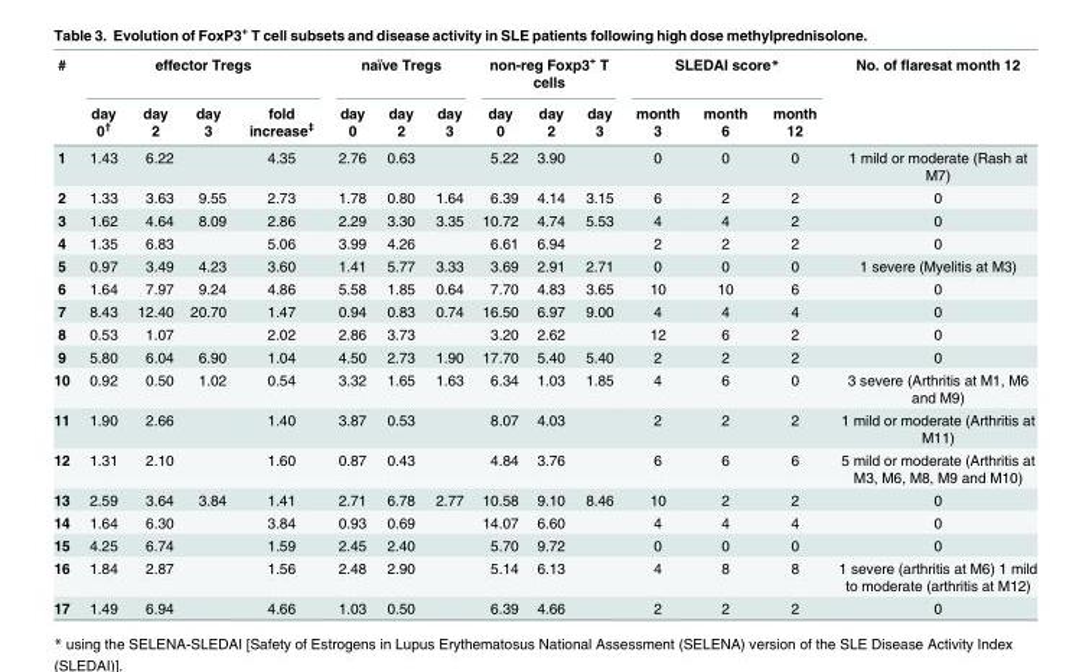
<table><thead><tr><td rowspan="2">#</td><td colspan="4">effector Tregs</td><td colspan="3">naïve Tregs</td><td colspan="3">non-reg Foxp3<sup>+</sup> T cells</td><td colspan="3">SLEDAI score*</td><td rowspan="2">No. of flaresat month 12</td></tr><tr><td>day 0<sup>†</sup></td><td>day 2</td><td>day 3</td><td>fold increase<sup>‡</sup></td><td>day 0</td><td>day 2</td><td>day 3</td><td>day 0</td><td>day 2</td><td>day 3</td><td>month 3</td><td>month 6</td><td>month 12</td></tr></thead><tbody><tr><td>1</td><td>1.43</td><td>6.22</td><td></td><td>4.35</td><td>2.76</td><td>0.63</td><td></td><td>5.22</td><td>3.90</td><td></td><td>0</td><td>0</td><td>0</td><td>1 mild or moderate (Rash at M7)</td></tr><tr><td>2</td><td>1.33</td><td>3.63</td><td>9.55</td><td>2.73</td><td>1.78</td><td>0.80</td><td>1.64</td><td>6.39</td><td>4.14</td><td>3.15</td><td>6</td><td>2</td><td>2</td><td>0</td></tr><tr><td>3</td><td>1.62</td><td>4.64</td><td>8.09</td><td>2.86</td><td>2.29</td><td>3.30</td><td>3.35</td><td>10.72</td><td>4.74</td><td>5.53</td><td>4</td><td>4</td><td>2</td><td>0</td></tr><tr><td>4</td><td>1.35</td><td>6.83</td><td></td><td>5.06</td><td>3.99</td><td>4.26</td><td></td><td>6.61</td><td>6.94</td><td></td><td>2</td><td>2</td><td>2</td><td>0</td></tr><tr><td>5</td><td>0.97</td><td>3.49</td><td>4.23</td><td>3.60</td><td>1.41</td><td>5.77</td><td>3.33</td><td>3.69</td><td>2.91</td><td>2.71</td><td>0</td><td>0</td><td>0</td><td>1 severe (Myelitis at M3)</td></tr><tr><td>6</td><td>1.64</td><td>7.97</td><td>9.24</td><td>4.86</td><td>5.58</td><td>1.85</td><td>0.64</td><td>7.70</td><td>4.83</td><td>3.65</td><td>10</td><td>10</td><td>6</td><td>0</td></tr><tr><td>7</td><td>8.43</td><td>12.40</td><td>20.70</td><td>1.47</td><td>0.94</td><td>0.83</td><td>0.74</td><td>16.50</td><td>6.97</td><td>9.00</td><td>4</td><td>4</td><td>4</td><td>0</td></tr><tr><td>8</td><td>0.53</td><td>1.07</td><td></td><td>2.02</td><td>2.86</td><td>3.73</td><td></td><td>3.20</td><td>2.62</td><td></td><td>12</td><td>6</td><td>2</td><td>0</td></tr><tr><td>9</td><td>5.80</td><td>6.04</td><td>6.90</td><td>1.04</td><td>4.50</td><td>2.73</td><td>1.90</td><td>17.70</td><td>5.40</td><td>5.40</td><td>2</td><td>2</td><td>2</td><td>0</td></tr><tr><td>10</td><td>0.92</td><td>0.50</td><td>1.02</td><td>0.54</td><td>3.32</td><td>1.65</td><td>1.63</td><td>6.34</td><td>1.03</td><td>1.85</td><td>4</td><td>6</td><td>0</td><td>3 severe (Arthritis at M1, M6 and M9)</td></tr><tr><td>11</td><td>1.90</td><td>2.66</td><td></td><td>1.40</td><td>3.87</td><td>0.53</td><td></td><td>8.07</td><td>4.03</td><td></td><td>2</td><td>2</td><td>2</td><td>1 mild or moderate (Arthritis at M11)</td></tr><tr><td>12</td><td>1.31</td><td>2.10</td><td></td><td>1.60</td><td>0.87</td><td>0.43</td><td></td><td>4.84</td><td>3.76</td><td></td><td>6</td><td>6</td><td>6</td><td>5 mild or moderate (Arthritis at M3, M6, M8, M9 and M10)</td></tr><tr><td>13</td><td>2.59</td><td>3.64</td><td>3.84</td><td>1.41</td><td>2.71</td><td>6.78</td><td>2.77</td><td>10.58</td><td>9.10</td><td>8.46</td><td>10</td><td>2</td><td>2</td><td>0</td></tr><tr><td>14</td><td>1.64</td><td>6.30</td><td></td><td>3.84</td><td>0.93</td><td>0.69</td><td></td><td>14.07</td><td>6.60</td><td></td><td>4</td><td>4</td><td>4</td><td>0</td></tr><tr><td>15</td><td>4.25</td><td>6.74</td><td></td><td>1.59</td><td>2.45</td><td>2.40</td><td></td><td>5.70</td><td>9.72</td><td></td><td>0</td><td>0</td><td>0</td><td>0</td></tr><tr><td>16</td><td>1.84</td><td>2.87</td><td></td><td>1.56</td><td>2.48</td><td>2.90</td><td></td><td>5.14</td><td>6.13</td><td></td><td>4</td><td>8</td><td>8</td><td>1 severe (arthritis at M6) 1 mild to moderate (arthritis at M12)</td></tr><tr><td>17</td><td>1.49</td><td>6.94</td><td></td><td>4.66</td><td>1.03</td><td>0.50</td><td></td><td>6.39</td><td>4.66</td><td></td><td>2</td><td>2</td><td>2</td><td>0</td></tr></tbody></table>